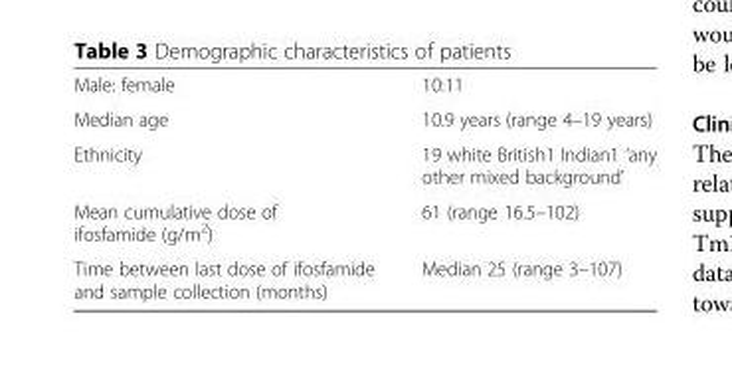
<table><tbody><tr><td>Male: female</td><td>10:11</td></tr><tr><td>Median age</td><td>10.9 years (range 4–19 years)</td></tr><tr><td>Ethnicity</td><td>19 white British1 Indian1 ‘any other mixed background’</td></tr><tr><td>Mean cumulative dose of ifosfamide (g/m<sup>2</sup>)</td><td>61 (range 16.5–102)</td></tr><tr><td>Time between last dose of ifosfamide and sample collection (months)</td><td>Median 25 (range 3–107)</td></tr></tbody></table>